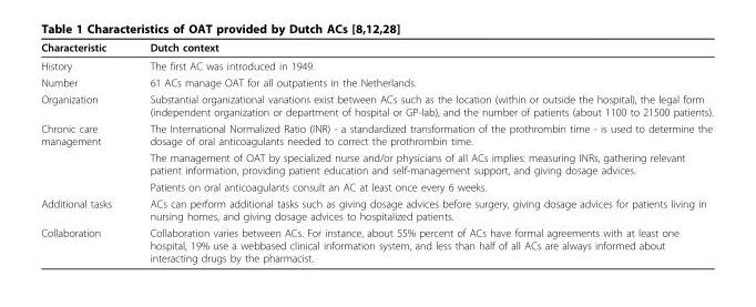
<table><thead><tr><td>Characteristic</td><td>Dutch context</td></tr></thead><tbody><tr><td>History</td><td>The first AC was introduced in 1949.</td></tr><tr><td>Number</td><td>61 ACs manage OAT for all outpatients in the Netherlands.</td></tr><tr><td>Organization</td><td>Substantial organizational variations exist between ACs such as the location (within or outside the hospital), the legal form (independent organization or department of hospital or GP-lab), and the number of patients (about 1100 to 21500 patients).</td></tr><tr><td rowspan="3">Chronic care management</td><td>The International Normalized Ratio (INR) - a standardized transformation of the prothrombin time - is used to determine the dosage of oral anticoagulants needed to correct the prothrombin time.</td></tr><tr><td>The management of OAT by specialized nurse and/or physicians of all ACs implies: measuring INRs, gathering relevant patient information, providing patient education and self-management support, and giving dosage advices.</td></tr><tr><td>Patients on oral anticoagulants consult an AC at least once every 6 weeks.</td></tr><tr><td>Additional tasks</td><td>ACs can perform additional tasks such as giving dosage advices before surgery, giving dosage advices for patients living in nursing homes, and giving dosage advices to hospitalized patients.</td></tr><tr><td>Collaboration</td><td>Collaboration varies between ACs. For instance, about 55% percent of ACs have formal agreements with at least one hospital, 19% use a webbased clinical information system, and less than half of all ACs are always informed about interacting drugs by the pharmacist.</td></tr></tbody></table>